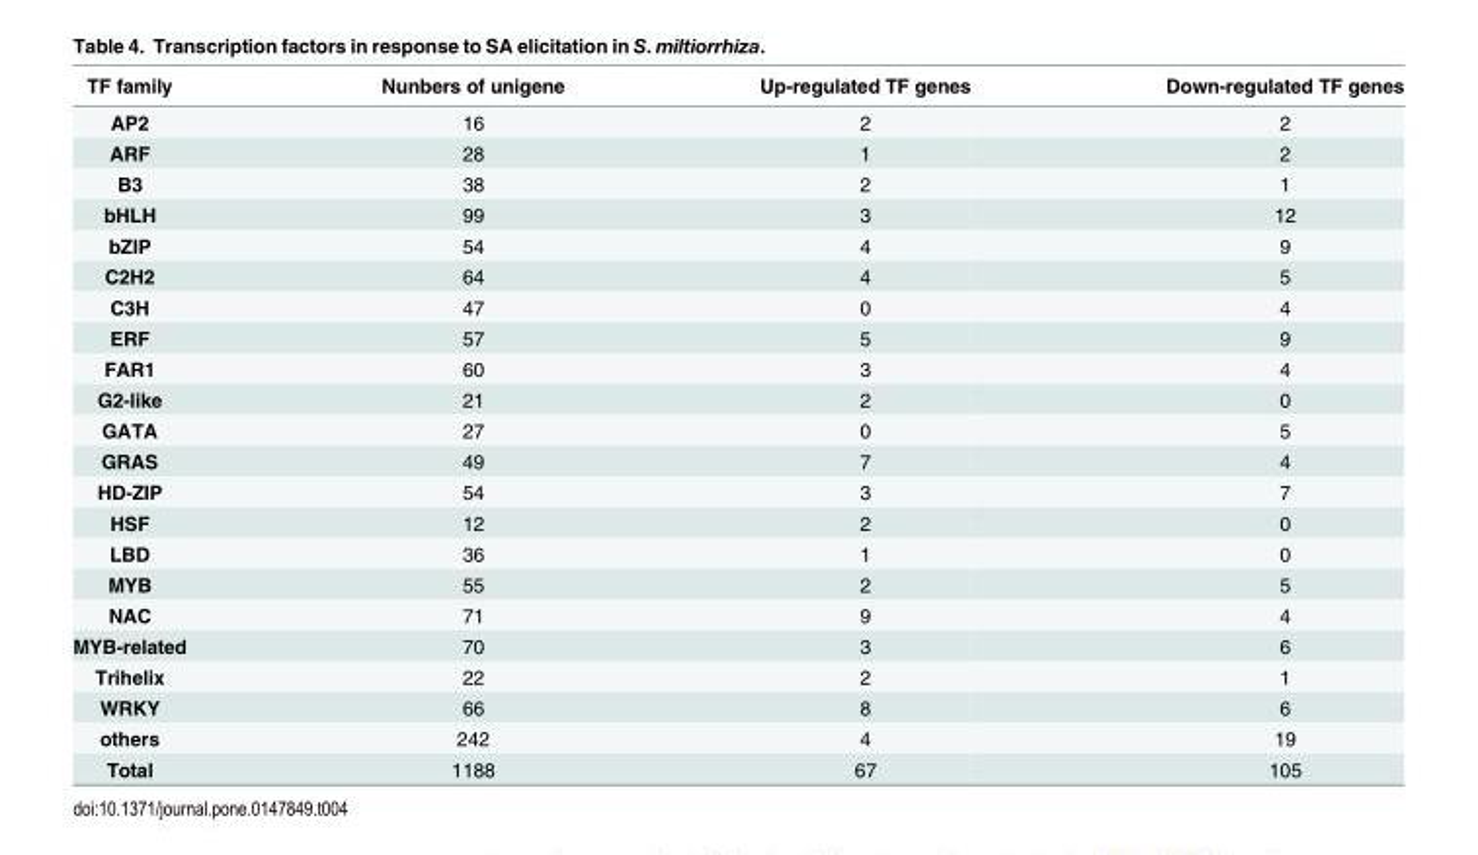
<table><thead><tr><td>TF family</td><td>Nunbers of unigene</td><td>Up-regulated TF genes</td><td>Down-regulated TF genes</td></tr></thead><tbody><tr><td>AP2</td><td>16</td><td>2</td><td>2</td></tr><tr><td>ARF</td><td>28</td><td>1</td><td>2</td></tr><tr><td>B3</td><td>38</td><td>2</td><td>1</td></tr><tr><td>bHLH</td><td>99</td><td>3</td><td>12</td></tr><tr><td>bZIP</td><td>54</td><td>4</td><td>9</td></tr><tr><td>C2H2</td><td>64</td><td>4</td><td>5</td></tr><tr><td>C3H</td><td>47</td><td>0</td><td>4</td></tr><tr><td>ERF</td><td>57</td><td>5</td><td>9</td></tr><tr><td>FAR1</td><td>60</td><td>3</td><td>4</td></tr><tr><td>G2-like</td><td>21</td><td>2</td><td>0</td></tr><tr><td>GATA</td><td>27</td><td>0</td><td>5</td></tr><tr><td>GRAS</td><td>49</td><td>7</td><td>4</td></tr><tr><td>HD-ZIP</td><td>54</td><td>3</td><td>7</td></tr><tr><td>HSF</td><td>12</td><td>2</td><td>0</td></tr><tr><td>LBD</td><td>36</td><td>1</td><td>0</td></tr><tr><td>MYB</td><td>55</td><td>2</td><td>5</td></tr><tr><td>NAC</td><td>71</td><td>9</td><td>4</td></tr><tr><td>MYB-related</td><td>70</td><td>3</td><td>6</td></tr><tr><td>Trihelix</td><td>22</td><td>2</td><td>1</td></tr><tr><td>WRKY</td><td>66</td><td>8</td><td>6</td></tr><tr><td>others</td><td>242</td><td>4</td><td>19</td></tr><tr><td>Total</td><td>1188</td><td>67</td><td>105</td></tr></tbody></table>